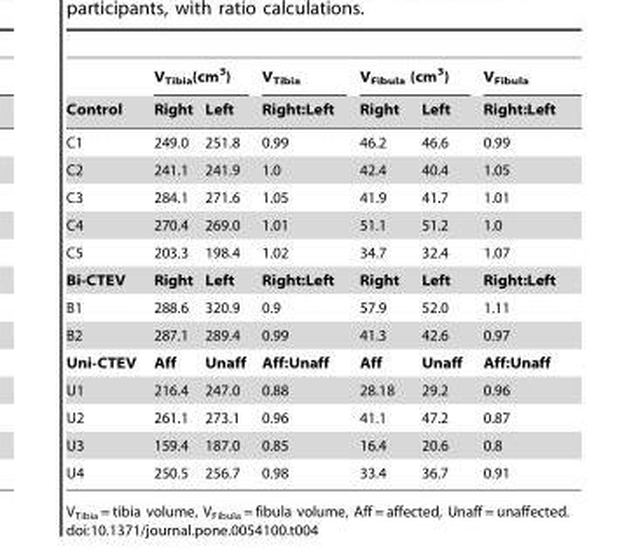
<table><thead><tr><td rowspan="2">Control</td><td colspan="2">V<sub>Tibia</sub>(cm<sup>3</sup>)</td><td rowspan="2">VTibia Right:Left</td><td colspan="2">V<sub>Fibula</sub> (cm<sup>3</sup>)</td><td rowspan="2">VFibula Right:Left</td></tr><tr><td>Right</td><td>Left</td><td>Right</td><td>Left</td></tr></thead><tbody><tr><td>C1</td><td>249.0</td><td>251.8</td><td>0.99</td><td>46.2</td><td>46.6</td><td>0.99</td></tr><tr><td>C2</td><td>241.1</td><td>241.9</td><td>1.0</td><td>42.4</td><td>40.4</td><td>1.05</td></tr><tr><td>C3</td><td>284.1</td><td>271.6</td><td>1.05</td><td>41.9</td><td>41.7</td><td>1.01</td></tr><tr><td>C4</td><td>270.4</td><td>269.0</td><td>1.01</td><td>51.1</td><td>51.2</td><td>1.0</td></tr><tr><td>C5</td><td>203.3</td><td>198.4</td><td>1.02</td><td>34.7</td><td>32.4</td><td>1.07</td></tr><tr><td>Bi-CTEV</td><td>Right</td><td>Left</td><td>Right:Left</td><td>Right</td><td>Left</td><td>Right:Left</td></tr><tr><td>B1</td><td>288.6</td><td>320.9</td><td>0.9</td><td>57.9</td><td>52.0</td><td>1.11</td></tr><tr><td>B2</td><td>287.1</td><td>289.4</td><td>0.99</td><td>41.3</td><td>42.6</td><td>0.97</td></tr><tr><td>Uni-CTEV</td><td>Aff</td><td>Unaff</td><td>Aff:Unaff</td><td>Aff</td><td>Unaff</td><td>Aff:Unaff</td></tr><tr><td>U1</td><td>216.4</td><td>247.0</td><td>0.88</td><td>28.18</td><td>29.2</td><td>0.96</td></tr><tr><td>U2</td><td>261.1</td><td>273.1</td><td>0.96</td><td>41.1</td><td>47.2</td><td>0.87</td></tr><tr><td>U3</td><td>159.4</td><td>187.0</td><td>0.85</td><td>16.4</td><td>20.6</td><td>0.8</td></tr><tr><td>U4</td><td>250.5</td><td>256.7</td><td>0.98</td><td>33.4</td><td>36.7</td><td>0.91</td></tr></tbody></table>